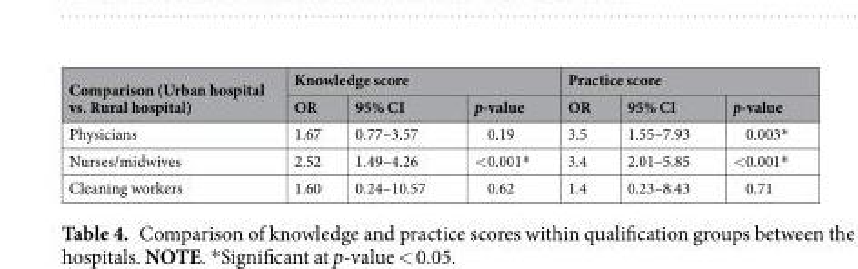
<table><thead><tr><td rowspan="2">Comparison (Urban hospital vs. Rural hospital)</td><td colspan="3">Knowledge score</td><td colspan="3">Practice score</td></tr><tr><td>OR</td><td>95% CI</td><td>p-value</td><td>OR</td><td>95% CI</td><td>p-value</td></tr></thead><tbody><tr><td>Physicians</td><td>1.67</td><td>0.77–3.57</td><td>0.19</td><td>3.5</td><td>1.55–7.93</td><td>0.003*</td></tr><tr><td>Nurses/midwives</td><td>2.52</td><td>1.49–4.26</td><td>&lt;0.001*</td><td>3.4</td><td>2.01–5.85</td><td>&lt;0.001*</td></tr><tr><td>Cleaning workers</td><td>1.60</td><td>0.24–10.57</td><td>0.62</td><td>1.4</td><td>0.23–8.43</td><td>0.71</td></tr></tbody></table>